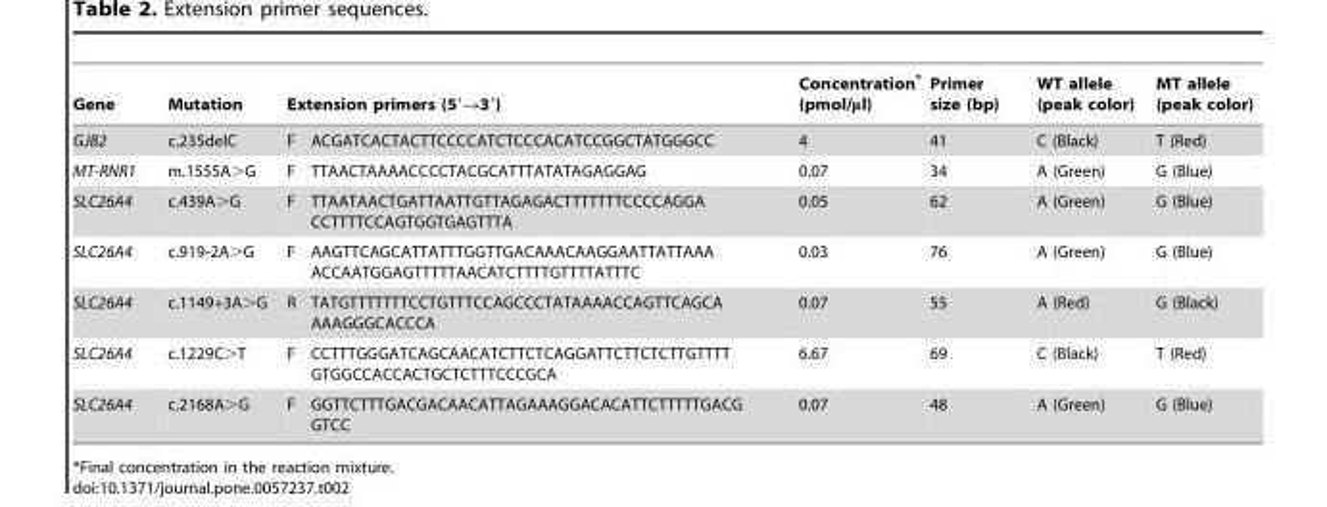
<table><thead><tr><td rowspan="2">Gene GJB2</td><td rowspan="2">Mutation c.235delC</td><td colspan="2">Extension primers (5′→3′)</td><td rowspan="2">Concentration* (pmol/μl) 4</td><td rowspan="2">Primer size (bp) 41</td><td rowspan="2">WT allele (peak color) C (Black)</td><td rowspan="2">MT allele (peak color) T (Red)</td></tr><tr><td>F</td><td>ACGATCACTACTTCCCCATCTCCCACATCCGGCTATGGGCC</td></tr></thead><tbody><tr><td>MT-RNR1</td><td>m.1555A&gt;G</td><td>F</td><td>TTAACTAAAACCCCTACGCATTTATATAGAGGAG</td><td>0.07</td><td>34</td><td>A (Green)</td><td>G (Blue)</td></tr><tr><td>SLC26A4</td><td>c.439A&gt;G</td><td>F</td><td>TTAATAACTGATTAATTGTTAGAGACTTTTTTTCCCCAGGA CCTTTTCCAGTGGTGAGTTTA</td><td>0.05</td><td>62</td><td>A (Green)</td><td>G (Blue)</td></tr><tr><td>SLC26A4</td><td>c.919-2A&gt;G</td><td>F</td><td>AAGTTCAGCATTATTTGGTTGACAAACAAGGAATTATTAAA ACCAATGGAGTTTTTAACATCTTTTGTTTTATTTC</td><td>0.03</td><td>76</td><td>A (Green)</td><td>G (Blue)</td></tr><tr><td>SLC26A4</td><td>c.1149+3A&gt;G</td><td>R</td><td>TATGTTTTTTTCCTGTTTCCAGCCCTATAAAACCAGTTCAGCA AAAGGGCACCCA</td><td>0.07</td><td>55</td><td>A (Red)</td><td>G (Black)</td></tr><tr><td>SLC26A4</td><td>c.1229C&gt;T</td><td>F</td><td>CCTTTGGGATCAGCAACATCTTCTCAGGATTCTTCTCTTGTTTT GTGGCCACCACTGCTCTTTCCCGCA</td><td>6.67</td><td>69</td><td>C (Black)</td><td>T (Red)</td></tr><tr><td>SLC26A4</td><td>c.2168A&gt;G</td><td>F</td><td>GGTTCTTTGACGACAACATTAGAAAGGACACATTCTTTTTGACG GTCC</td><td>0.07</td><td>48</td><td>A (Green)</td><td>G (Blue)</td></tr></tbody></table>